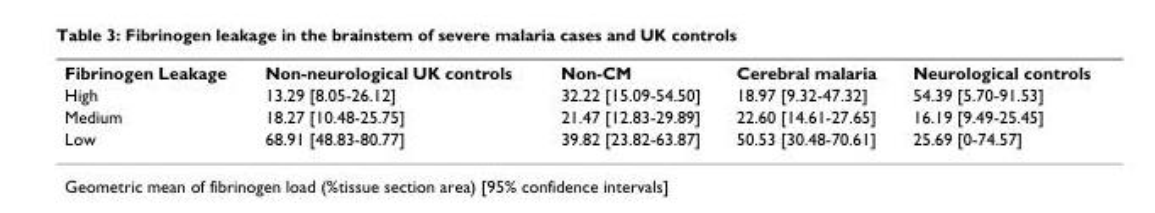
<table><tbody><tr><td>Fibrinogen Leakage</td><td>Non-neurological UK controls</td><td>Non-CM</td><td>Cerebral malaria</td><td>Neurological controls</td></tr><tr><td>High</td><td>13.29 [8.05-26.12]</td><td>32.22 [15.09-54.50]</td><td>18.97 [9.32-47.32]</td><td>54.39 [5.70-91.53]</td></tr><tr><td>Medium</td><td>18.27 [10.48-25.75]</td><td>21.47 [12.83-29.89]</td><td>22.60 [14.61-27.65]</td><td>16.19 [9.49-25.45]</td></tr><tr><td>Low</td><td>68.91 [48.83-80.77]</td><td>39.82 [23.82-63.87]</td><td>50.53 [30.48-70.61]</td><td>25.69 [0-74.57]</td></tr></tbody></table>